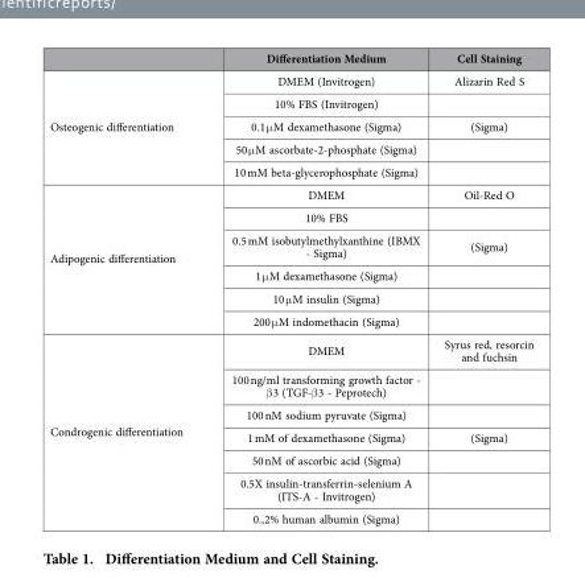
<table><thead><tr><td></td><td>Differentiation Medium</td><td>Cell Staining</td></tr></thead><tbody><tr><td rowspan="5">Osteogenic differentiation</td><td>DMEM (Invitrogen)</td><td>Alizarin Red S</td></tr><tr><td>10% FBS (Invitrogen)</td><td></td></tr><tr><td>0.1 μ M dexamethasone (Sigma)</td><td>(Sigma)</td></tr><tr><td>50 μ M ascorbate-2-phosphate (Sigma)</td><td></td></tr><tr><td>10 mM beta-glycerophosphate (Sigma)</td><td></td></tr><tr><td rowspan="6">Adipogenic differentiation</td><td>DMEM</td><td>Oil-Red O</td></tr><tr><td>10% FBS</td><td></td></tr><tr><td>0.5 mM isobutylmethylxanthine (IBMX - Sigma)</td><td>(Sigma)</td></tr><tr><td>1 μ M dexamethasone (Sigma)</td><td></td></tr><tr><td>10 μ M insulin (Sigma)</td><td></td></tr><tr><td>200 μ M indomethacin (Sigma)</td><td></td></tr><tr><td rowspan="7">Condrogenic differentiation</td><td>DMEM</td><td>Syrus red, resorcin and fuchsin</td></tr><tr><td>100 ng/ml transforming growth factor - β 3 (TGF-β 3 - Peprotech)</td><td></td></tr><tr><td>100 nM sodium pyruvate (Sigma)</td><td></td></tr><tr><td>1 mM of dexamethasone (Sigma)</td><td>(Sigma)</td></tr><tr><td>50 nM of ascorbic acid (Sigma)</td><td></td></tr><tr><td>0.5X insulin-transferrin-selenium A (ITS-A - Invitrogen)</td><td></td></tr><tr><td>0.,2% human albumin (Sigma)</td><td></td></tr></tbody></table>